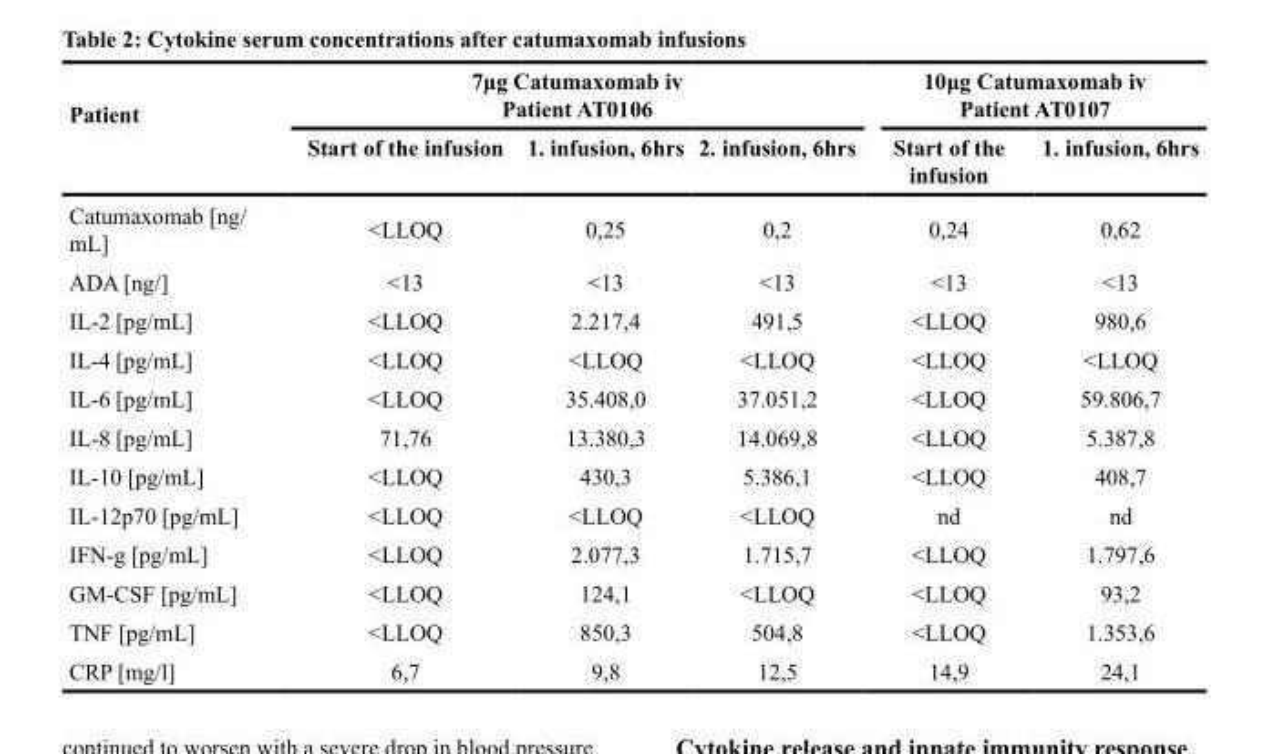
<table><thead><tr><td rowspan="2">Patient</td><td colspan="3">7μg Catumaxomab iv Patient AT0106</td><td colspan="2">10μg Catumaxomab iv Patient AT0107</td></tr><tr><td>Start of the infusion</td><td>1. infusion, 6hrs</td><td>2. infusion, 6hrs</td><td>Start of the infusion</td><td>1. infusion, 6hrs</td></tr></thead><tbody><tr><td>Catumaxomab [ng/ mL]</td><td>&lt;LLOQ</td><td>0,25</td><td>0,2</td><td>0,24</td><td>0,62</td></tr><tr><td>ADA [ng/]</td><td>&lt;13</td><td>&lt;13</td><td>&lt;13</td><td>&lt;13</td><td>&lt;13</td></tr><tr><td>IL-2 [pg/mL]</td><td>&lt;LLOQ</td><td>2.217,4</td><td>491,5</td><td>&lt;LLOQ</td><td>980,6</td></tr><tr><td>IL-4 [pg/mL]</td><td>&lt;LLOQ</td><td>&lt;LLOQ</td><td>&lt;LLOQ</td><td>&lt;LLOQ</td><td>&lt;LLOQ</td></tr><tr><td>IL-6 [pg/mL]</td><td>&lt;LLOQ</td><td>35.408,0</td><td>37.051,2</td><td>&lt;LLOQ</td><td>59.806,7</td></tr><tr><td>IL-8 [pg/mL]</td><td>71,76</td><td>13.380,3</td><td>14.069,8</td><td>&lt;LLOQ</td><td>5.387,8</td></tr><tr><td>IL-10 [pg/mL]</td><td>&lt;LLOQ</td><td>430,3</td><td>5.386,1</td><td>&lt;LLOQ</td><td>408,7</td></tr><tr><td>IL-12p70 [pg/mL]</td><td>&lt;LLOQ</td><td>&lt;LLOQ</td><td>&lt;LLOQ</td><td>nd</td><td>nd</td></tr><tr><td>IFN-g [pg/mL]</td><td>&lt;LLOQ</td><td>2.077,3</td><td>1.715,7</td><td>&lt;LLOQ</td><td>1.797,6</td></tr><tr><td>GM-CSF [pg/mL]</td><td>&lt;LLOQ</td><td>124,1</td><td>&lt;LLOQ</td><td>&lt;LLOQ</td><td>93,2</td></tr><tr><td>TNF [pg/mL]</td><td>&lt;LLOQ</td><td>850,3</td><td>504,8</td><td>&lt;LLOQ</td><td>1.353,6</td></tr><tr><td>CRP [mg/l]</td><td>6,7</td><td>9,8</td><td>12,5</td><td>14,9</td><td>24,1</td></tr></tbody></table>